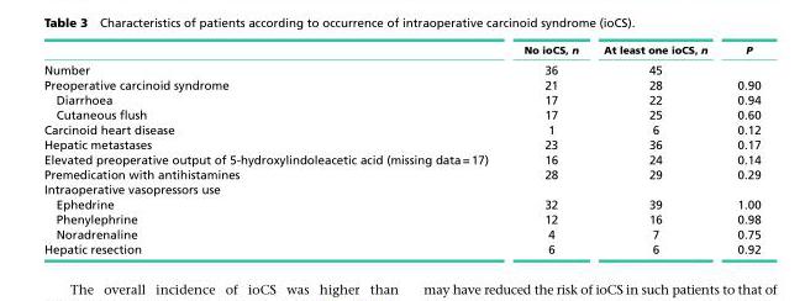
<table><thead><tr><td></td><td>No ioCS, n</td><td>At least one ioCS, n</td><td>P</td></tr></thead><tbody><tr><td>Number</td><td>36</td><td>45</td><td></td></tr><tr><td>Preoperative carcinoid syndrome</td><td>21</td><td>28</td><td>0.90</td></tr><tr><td>Diarrhoea</td><td>17</td><td>22</td><td>0.94</td></tr><tr><td>Cutaneous flush</td><td>17</td><td>25</td><td>0.60</td></tr><tr><td>Carcinoid heart disease</td><td>1</td><td>6</td><td>0.12</td></tr><tr><td>Hepatic metastases</td><td>23</td><td>36</td><td>0.17</td></tr><tr><td>Elevated preoperative output of 5-hydroxylindoleacetic acid (missing data = 17)</td><td>16</td><td>24</td><td>0.14</td></tr><tr><td>Premedication with antihistamines</td><td>28</td><td>29</td><td>0.29</td></tr><tr><td colspan="4">Intraoperative vasopressors use</td></tr><tr><td>Ephedrine</td><td>32</td><td>39</td><td>1.00</td></tr><tr><td>Phenylephrine</td><td>12</td><td>16</td><td>0.98</td></tr><tr><td>Noradrenaline</td><td>4</td><td>7</td><td>0.75</td></tr><tr><td>Hepatic resection</td><td>6</td><td>6</td><td>0.92</td></tr></tbody></table>